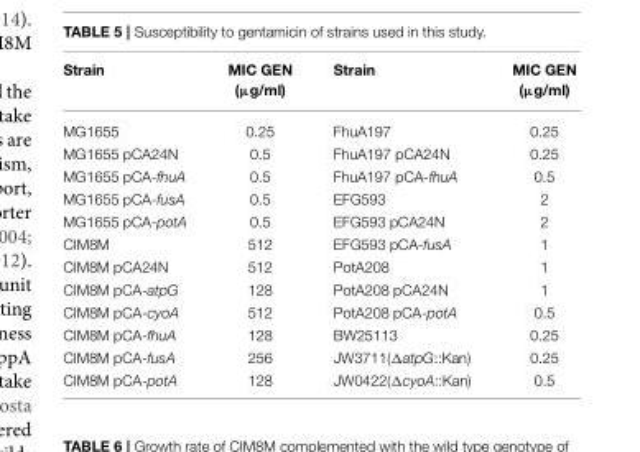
<table><thead><tr><td>Strain</td><td>MIC GEN (µg/ml)</td><td>Strain</td><td>MIC GEN (µg/ml)</td></tr></thead><tbody><tr><td>MG1655</td><td>0.25</td><td>FhuA197</td><td>0.25</td></tr><tr><td>MG1655 pCA24N</td><td>0.5</td><td>FhuA197 pCA24N</td><td>0.25</td></tr><tr><td>MG1655 pCA-fhuA</td><td>0.5</td><td>FhuA197 pCA-fhuA</td><td>0.5</td></tr><tr><td>MG1655 pCA-fusA</td><td>0.5</td><td>EFG593</td><td>2</td></tr><tr><td>MG1655 pCA-potA</td><td>0.5</td><td>EFG593 pCA24N</td><td>2</td></tr><tr><td>CIM8M</td><td>512</td><td>EFG593 pCA-fusA</td><td>1</td></tr><tr><td>CIM8M pCA24N</td><td>512</td><td>PotA208</td><td>1</td></tr><tr><td>CIM8M pCA-atpG</td><td>128</td><td>PotA208 pCA24N</td><td>1</td></tr><tr><td>CIM8M pCA-cyoA</td><td>512</td><td>PotA208 pCA-potA</td><td>0.5</td></tr><tr><td>CIM8M pCA-fhuA</td><td>128</td><td>BW25113</td><td>0.25</td></tr><tr><td>CIM8M pCA-fusA</td><td>256</td><td>JW3711(ΔatpG::Kan)</td><td>0.25</td></tr><tr><td>CIM8M pCA-potA</td><td>128</td><td>JW0422(ΔcyoA::Kan)</td><td>0.5</td></tr></tbody></table>